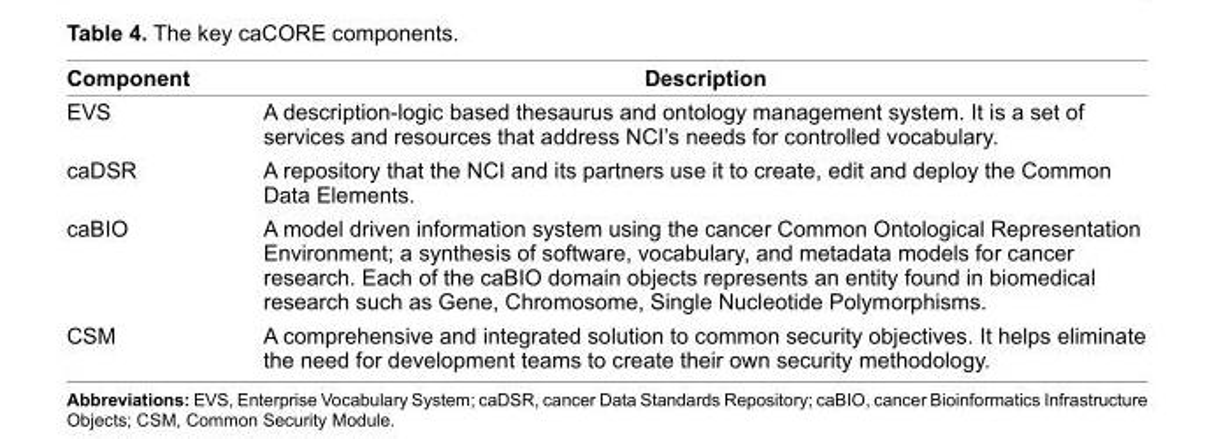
<table><thead><tr><td>Component</td><td>Description</td></tr></thead><tbody><tr><td>EVS</td><td>A description-logic based thesaurus and ontology management system. It is a set of services and resources that address NCI’s needs for controlled vocabulary.</td></tr><tr><td>caDSR</td><td>A repository that the NCI and its partners use it to create, edit and deploy the Common Data Elements.</td></tr><tr><td>caBIO</td><td>A model driven information system using the cancer Common Ontological Representation Environment; a synthesis of software, vocabulary, and metadata models for cancer research. Each of the caBIO domain objects represents an entity found in biomedical research such as Gene, Chromosome, Single Nucleotide Polymorphisms.</td></tr><tr><td>CSM</td><td>A comprehensive and integrated solution to common security objectives. It helps eliminate the need for development teams to create their own security methodology.</td></tr></tbody></table>